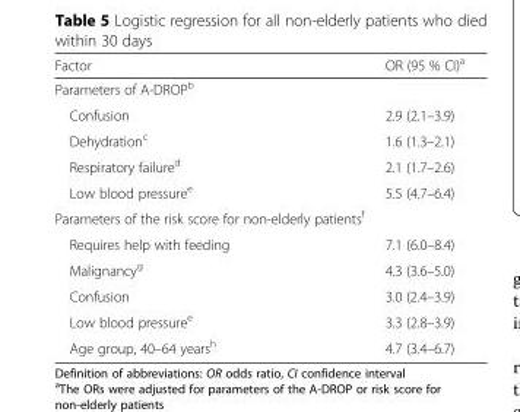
<table><thead><tr><td>Factor</td><td>OR (95 % CI)<sup>a</sup></td></tr></thead><tbody><tr><td colspan="2">Parameters of A-DROP<sup>b</sup></td></tr><tr><td>Confusion</td><td>2.9 (2.1–3.9)</td></tr><tr><td>Dehydration<sup>c</sup></td><td>1.6 (1.3–2.1)</td></tr><tr><td>Respiratory failure<sup>d</sup></td><td>2.1 (1.7–2.6)</td></tr><tr><td>Low blood pressure<sup>e</sup></td><td>5.5 (4.7–6.4)</td></tr><tr><td colspan="2">Parameters of the risk score for non-elderly patients<sup>f</sup></td></tr><tr><td>Requires help with feeding</td><td>7.1 (6.0–8.4)</td></tr><tr><td>Malignancy<sup>g</sup></td><td>4.3 (3.6–5.0)</td></tr><tr><td>Confusion</td><td>3.0 (2.4–3.9)</td></tr><tr><td>Low blood pressure<sup>e</sup></td><td>3.3 (2.8–3.9)</td></tr><tr><td>Age group, 40–64 years<sup>h</sup></td><td>4.7 (3.4–6.7)</td></tr></tbody></table>